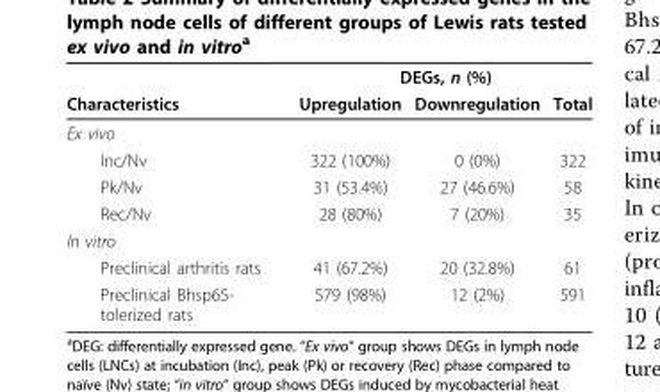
<table><thead><tr><td rowspan="2">Characteristics</td><td colspan="3">DEGs, n (%)</td></tr><tr><td>Upregulation</td><td>Downregulation</td><td>Total</td></tr></thead><tbody><tr><td colspan="4">Ex vivo</td></tr><tr><td>Inc/Nv</td><td>322 (100%)</td><td>0 (0%)</td><td>322</td></tr><tr><td>Pk/Nv</td><td>31 (53.4%)</td><td>27 (46.6%)</td><td>58</td></tr><tr><td>Rec/Nv</td><td>28 (80%)</td><td>7 (20%)</td><td>35</td></tr><tr><td colspan="4">In vitro</td></tr><tr><td>Preclinical arthritis rats</td><td>41 (67.2%)</td><td>20 (32.8%)</td><td>61</td></tr><tr><td>Preclinical Bhsp65- tolerized rats</td><td>579 (98%)</td><td>12 (2%)</td><td>591</td></tr></tbody></table>